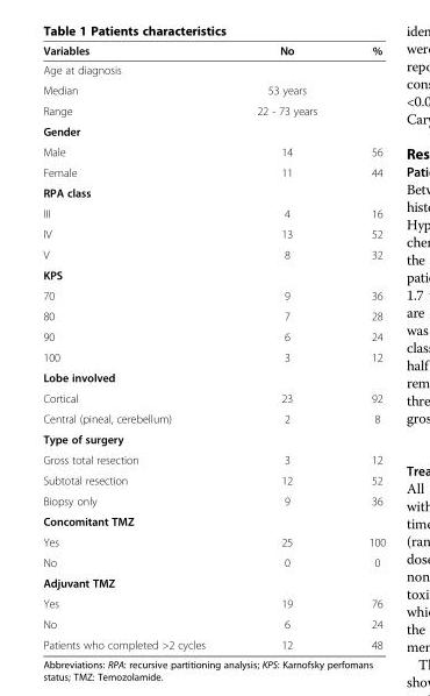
<table><thead><tr><td>Variables</td><td>No</td><td>%</td></tr></thead><tbody><tr><td colspan="3">Age at diagnosis</td></tr><tr><td>Median</td><td>53 years</td><td></td></tr><tr><td>Range</td><td>22 - 73 years</td><td></td></tr><tr><td colspan="3">Gender</td></tr><tr><td>Male</td><td>14</td><td>56</td></tr><tr><td>Female</td><td>11</td><td>44</td></tr><tr><td colspan="3">RPA class</td></tr><tr><td>III</td><td>4</td><td>16</td></tr><tr><td>IV</td><td>13</td><td>52</td></tr><tr><td>V</td><td>8</td><td>32</td></tr><tr><td colspan="3">KPS</td></tr><tr><td>70</td><td>9</td><td>36</td></tr><tr><td>80</td><td>7</td><td>28</td></tr><tr><td>90</td><td>6</td><td>24</td></tr><tr><td>100</td><td>3</td><td>12</td></tr><tr><td colspan="3">Lobe involved</td></tr><tr><td>Cortical</td><td>23</td><td>92</td></tr><tr><td>Central (pineal, cerebellum)</td><td>2</td><td>8</td></tr><tr><td colspan="3">Type of surgery</td></tr><tr><td>Gross total resection</td><td>3</td><td>12</td></tr><tr><td>Subtotal resection</td><td>12</td><td>52</td></tr><tr><td>Biopsy only</td><td>9</td><td>36</td></tr><tr><td colspan="3">Concomitant TMZ</td></tr><tr><td>Yes</td><td>25</td><td>100</td></tr><tr><td>No</td><td>0</td><td>0</td></tr><tr><td colspan="3">Adjuvant TMZ</td></tr><tr><td>Yes</td><td>19</td><td>76</td></tr><tr><td>No</td><td>6</td><td>24</td></tr><tr><td>Patients who completed &gt;2 cycles</td><td>12</td><td>48</td></tr></tbody></table>